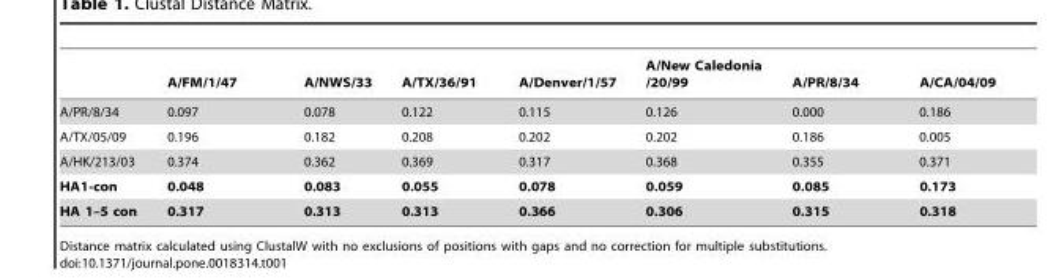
<table><thead><tr><td></td><td>A/FM/1/47</td><td>A/NWS/33</td><td>A/TX/36/91</td><td>A/Denver/1/57</td><td>A/New Caledonia /20/99</td><td>A/PR/8/34</td><td>A/CA/04/09</td></tr></thead><tbody><tr><td>A/PR/8/34</td><td>0.097</td><td>0.078</td><td>0.122</td><td>0.115</td><td>0.126</td><td>0.000</td><td>0.186</td></tr><tr><td>A/TX/05/09</td><td>0.196</td><td>0.182</td><td>0.208</td><td>0.202</td><td>0.202</td><td>0.186</td><td>0.005</td></tr><tr><td>A/HK/213/03</td><td>0.374</td><td>0.362</td><td>0.369</td><td>0.317</td><td>0.368</td><td>0.355</td><td>0.371</td></tr><tr><td>HA1-con</td><td>0.048</td><td>0.083</td><td>0.055</td><td>0.078</td><td>0.059</td><td>0.085</td><td>0.173</td></tr><tr><td>HA 1–5 con</td><td>0.317</td><td>0.313</td><td>0.313</td><td>0.366</td><td>0.306</td><td>0.315</td><td>0.318</td></tr></tbody></table>